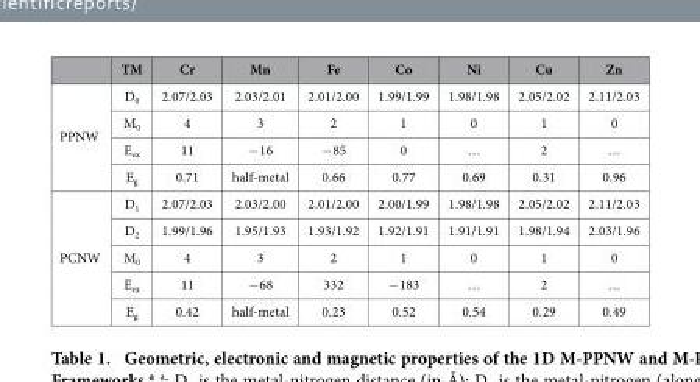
<table><thead><tr><td></td><td>TM</td><td>Cr</td><td>Mn</td><td>Fe</td><td>Co</td><td>Ni</td><td>Cu</td><td>Zn</td></tr></thead><tbody><tr><td rowspan="4">PPNW</td><td>D<sub>0</sub></td><td>2.07/2.03</td><td>2.03/2.01</td><td>2.01/2.00</td><td>1.99/1.99</td><td>1.98/1.98</td><td>2.05/2.02</td><td>2.11/2.03</td></tr><tr><td>M<sub>0</sub></td><td>4</td><td>3</td><td>2</td><td>1</td><td>0</td><td>1</td><td>0</td></tr><tr><td>E<sub>ex</sub></td><td>11</td><td>− 16</td><td>− 85</td><td>0</td><td>…</td><td>2</td><td>…</td></tr><tr><td>E<sub>g</sub></td><td>0.71</td><td>half-metal</td><td>0.66</td><td>0.77</td><td>0.69</td><td>0.31</td><td>0.96</td></tr><tr><td rowspan="5">PCNW</td><td>D<sub>1</sub></td><td>2.07/2.03</td><td>2.03/2.00</td><td>2.01/2.00</td><td>2.00/1.99</td><td>1.98/1.98</td><td>2.05/2.02</td><td>2.11/2.03</td></tr><tr><td>D<sub>2</sub></td><td>1.99/1.96</td><td>1.95/1.93</td><td>1.93/1.92</td><td>1.92/1.91</td><td>1.91/1.91</td><td>1.98/1.94</td><td>2.03/1.96</td></tr><tr><td>M<sub>0</sub></td><td>4</td><td>3</td><td>2</td><td>1</td><td>0</td><td>1</td><td>0</td></tr><tr><td>E<sub>ex</sub></td><td>11</td><td>− 68</td><td>332</td><td>− 183</td><td>…</td><td>2</td><td>…</td></tr><tr><td>E<sub>g</sub></td><td>0.42</td><td>half-metal</td><td>0.23</td><td>0.52</td><td>0.54</td><td>0.29</td><td>0.49</td></tr></tbody></table>